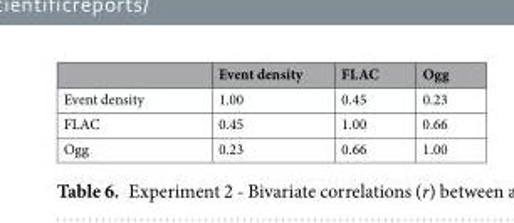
<table><thead><tr><td></td><td>Event density</td><td>FLAC</td><td>Ogg</td></tr></thead><tbody><tr><td>Event density</td><td>1.00</td><td>0.45</td><td>0.23</td></tr><tr><td>FLAC</td><td>0.45</td><td>1.00</td><td>0.66</td></tr><tr><td>Ogg</td><td>0.23</td><td>0.66</td><td>1.00</td></tr></tbody></table>